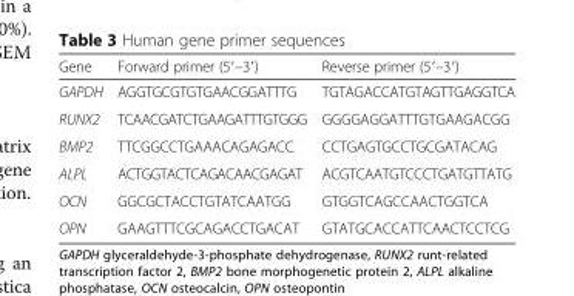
<table><thead><tr><td>Gene</td><td>Forward primer (5′–3′)</td><td>Reverse primer (5′–3′)</td></tr></thead><tbody><tr><td>GAPDH</td><td>AGGTGCGTGTGAACGGATTTG</td><td>TGTAGACCATGTAGTTGAGGTCA</td></tr><tr><td>RUNX2</td><td>TCAACGATCTGAAGATTTGTGGG</td><td>GGGGAGGATTTGTGAAGACGG</td></tr><tr><td>BMP2</td><td>TTCGGCCTGAAACAGAGACC</td><td>CCTGAGTGCCTGCGATACAG</td></tr><tr><td>ALPL</td><td>ACTGGTACTCAGACAACGAGAT</td><td>ACGTCAATGTCCCTGATGTTATG</td></tr><tr><td>OCN</td><td>GGCGCTACCTGTATCAATGG</td><td>GTGGTCAGCCAACTGGTCA</td></tr><tr><td>OPN</td><td>GAAGTTTCGCAGACCTGACAT</td><td>GTATGCACCATTCAACTCCTCG</td></tr></tbody></table>